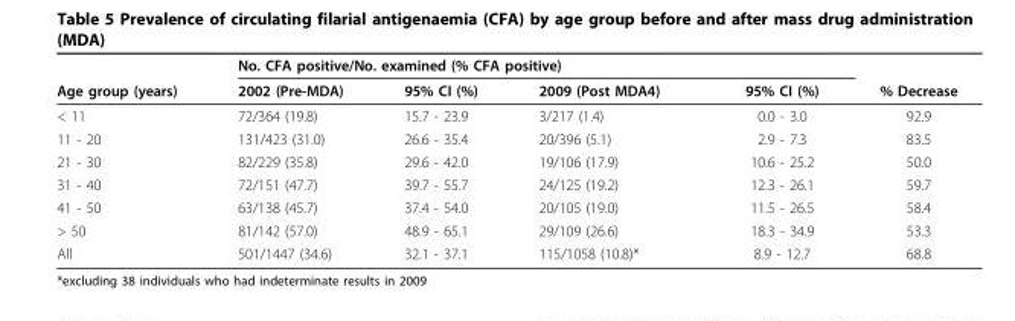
<table><thead><tr><td rowspan="2">Age group (years)</td><td colspan="3">No. CFA positive/No. examined (% CFA positive)</td><td rowspan="2">95% CI (%)</td><td rowspan="2">% Decrease</td></tr><tr><td>2002 (Pre-MDA)</td><td>95% CI (%)</td><td>2009 (Post MDA4)</td></tr></thead><tbody><tr><td>&lt; 11</td><td>72/364 (19.8)</td><td>15.7 - 23.9</td><td>3/217 (1.4)</td><td>0.0 - 3.0</td><td>92.9</td></tr><tr><td>11 - 20</td><td>131/423 (31.0)</td><td>26.6 - 35.4</td><td>20/396 (5.1)</td><td>2.9 - 7.3</td><td>83.5</td></tr><tr><td>21 - 30</td><td>82/229 (35.8)</td><td>29.6 - 42.0</td><td>19/106 (17.9)</td><td>10.6 - 25.2</td><td>50.0</td></tr><tr><td>31 - 40</td><td>72/151 (47.7)</td><td>39.7 - 55.7</td><td>24/125 (19.2)</td><td>12.3 - 26.1</td><td>59.7</td></tr><tr><td>41 - 50</td><td>63/138 (45.7)</td><td>37.4 - 54.0</td><td>20/105 (19.0)</td><td>11.5 - 26.5</td><td>58.4</td></tr><tr><td>&gt; 50</td><td>81/142 (57.0)</td><td>48.9 - 65.1</td><td>29/109 (26.6)</td><td>18.3 - 34.9</td><td>53.3</td></tr><tr><td>All</td><td>501/1447 (34.6)</td><td>32.1 - 37.1</td><td>115/1058 (10.8)*</td><td>8.9 - 12.7</td><td>68.8</td></tr></tbody></table>